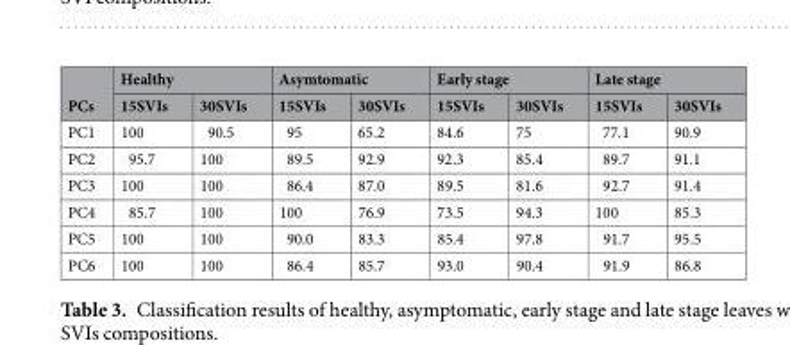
<table><thead><tr><td rowspan="2">PCs</td><td colspan="2">Healthy</td><td colspan="2">Asymtomatic</td><td colspan="2">Early stage</td><td colspan="2">Late stage</td></tr><tr><td>15SVIs</td><td>30SVIs</td><td>15SVIs</td><td>30SVIs</td><td>15SVIs</td><td>30SVIs</td><td>15SVIs</td><td>30SVIs</td></tr></thead><tbody><tr><td>PC1</td><td>100</td><td>90.5</td><td>95</td><td>65.2</td><td>84.6</td><td>75</td><td>77.1</td><td>90.9</td></tr><tr><td>PC2</td><td>95.7</td><td>100</td><td>89.5</td><td>92.9</td><td>92.3</td><td>85.4</td><td>89.7</td><td>91.1</td></tr><tr><td>PC3</td><td>100</td><td>100</td><td>86.4</td><td>87.0</td><td>89.5</td><td>81.6</td><td>92.7</td><td>91.4</td></tr><tr><td>PC4</td><td>85.7</td><td>100</td><td>100</td><td>76.9</td><td>73.5</td><td>94.3</td><td>100</td><td>85.3</td></tr><tr><td>PC5</td><td>100</td><td>100</td><td>90.0</td><td>83.3</td><td>85.4</td><td>97.8</td><td>91.7</td><td>95.5</td></tr><tr><td>PC6</td><td>100</td><td>100</td><td>86.4</td><td>85.7</td><td>93.0</td><td>90.4</td><td>91.9</td><td>86.8</td></tr></tbody></table>